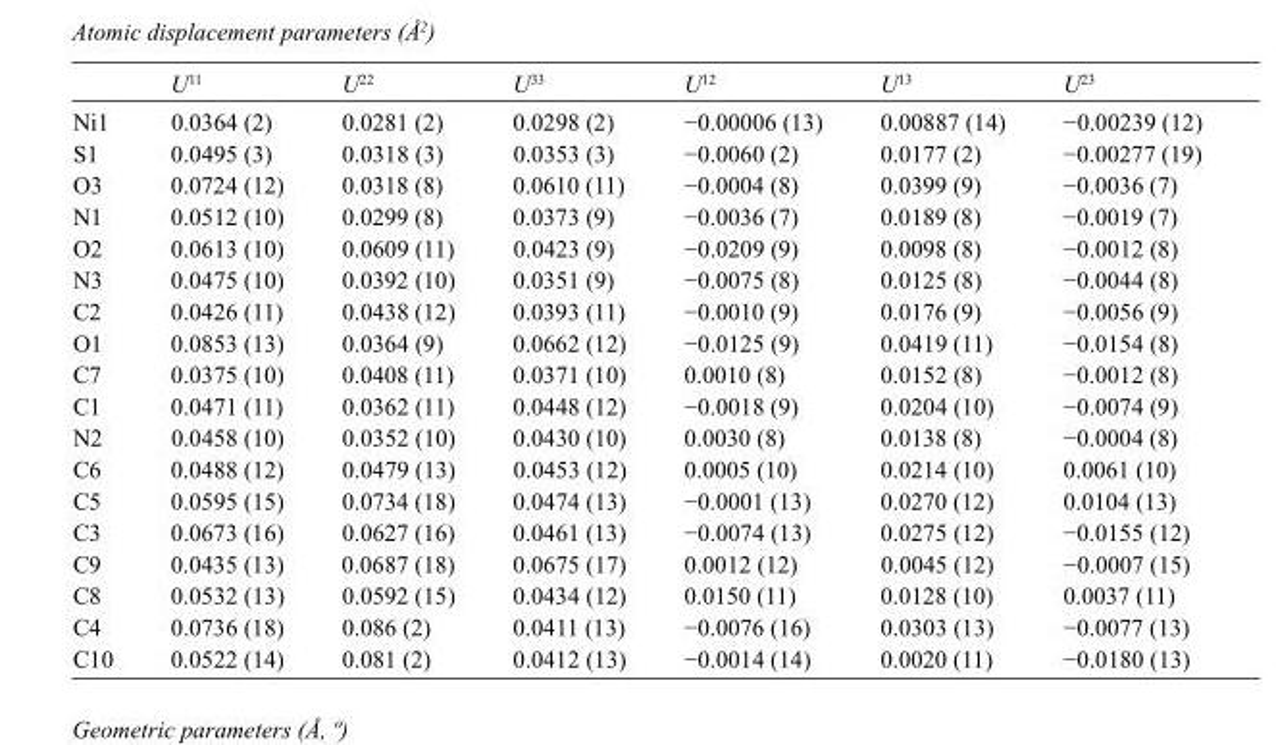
<table><thead><tr><td></td><td>U<sup>11</sup></td><td>U<sup>22</sup></td><td>U<sup>33</sup></td><td>U<sup>12</sup></td><td>U<sup>13</sup></td><td>U<sup>23</sup></td></tr></thead><tbody><tr><td>Ni1</td><td>0.0364 (2)</td><td>0.0281 (2)</td><td>0.0298 (2)</td><td>−0.00006 (13)</td><td>0.00887 (14)</td><td>−0.00239 (12)</td></tr><tr><td>S1</td><td>0.0495 (3)</td><td>0.0318 (3)</td><td>0.0353 (3)</td><td>−0.0060 (2)</td><td>0.0177 (2)</td><td>−0.00277 (19)</td></tr><tr><td>O3</td><td>0.0724 (12)</td><td>0.0318 (8)</td><td>0.0610 (11)</td><td>−0.0004 (8)</td><td>0.0399 (9)</td><td>−0.0036 (7)</td></tr><tr><td>N1</td><td>0.0512 (10)</td><td>0.0299 (8)</td><td>0.0373 (9)</td><td>−0.0036 (7)</td><td>0.0189 (8)</td><td>−0.0019 (7)</td></tr><tr><td>O2</td><td>0.0613 (10)</td><td>0.0609 (11)</td><td>0.0423 (9)</td><td>−0.0209 (9)</td><td>0.0098 (8)</td><td>−0.0012 (8)</td></tr><tr><td>N3</td><td>0.0475 (10)</td><td>0.0392 (10)</td><td>0.0351 (9)</td><td>−0.0075 (8)</td><td>0.0125 (8)</td><td>−0.0044 (8)</td></tr><tr><td>C2</td><td>0.0426 (11)</td><td>0.0438 (12)</td><td>0.0393 (11)</td><td>−0.0010 (9)</td><td>0.0176 (9)</td><td>−0.0056 (9)</td></tr><tr><td>O1</td><td>0.0853 (13)</td><td>0.0364 (9)</td><td>0.0662 (12)</td><td>−0.0125 (9)</td><td>0.0419 (11)</td><td>−0.0154 (8)</td></tr><tr><td>C7</td><td>0.0375 (10)</td><td>0.0408 (11)</td><td>0.0371 (10)</td><td>0.0010 (8)</td><td>0.0152 (8)</td><td>−0.0012 (8)</td></tr><tr><td>C1</td><td>0.0471 (11)</td><td>0.0362 (11)</td><td>0.0448 (12)</td><td>−0.0018 (9)</td><td>0.0204 (10)</td><td>−0.0074 (9)</td></tr><tr><td>N2</td><td>0.0458 (10)</td><td>0.0352 (10)</td><td>0.0430 (10)</td><td>0.0030 (8)</td><td>0.0138 (8)</td><td>−0.0004 (8)</td></tr><tr><td>C6</td><td>0.0488 (12)</td><td>0.0479 (13)</td><td>0.0453 (12)</td><td>0.0005 (10)</td><td>0.0214 (10)</td><td>0.0061 (10)</td></tr><tr><td>C5</td><td>0.0595 (15)</td><td>0.0734 (18)</td><td>0.0474 (13)</td><td>−0.0001 (13)</td><td>0.0270 (12)</td><td>0.0104 (13)</td></tr><tr><td>C3</td><td>0.0673 (16)</td><td>0.0627 (16)</td><td>0.0461 (13)</td><td>−0.0074 (13)</td><td>0.0275 (12)</td><td>−0.0155 (12)</td></tr><tr><td>C9</td><td>0.0435 (13)</td><td>0.0687 (18)</td><td>0.0675 (17)</td><td>0.0012 (12)</td><td>0.0045 (12)</td><td>−0.0007 (15)</td></tr><tr><td>C8</td><td>0.0532 (13)</td><td>0.0592 (15)</td><td>0.0434 (12)</td><td>0.0150 (11)</td><td>0.0128 (10)</td><td>0.0037 (11)</td></tr><tr><td>C4</td><td>0.0736 (18)</td><td>0.086 (2)</td><td>0.0411 (13)</td><td>−0.0076 (16)</td><td>0.0303 (13)</td><td>−0.0077 (13)</td></tr><tr><td>C10</td><td>0.0522 (14)</td><td>0.081 (2)</td><td>0.0412 (13)</td><td>−0.0014 (14)</td><td>0.0020 (11)</td><td>−0.0180 (13)</td></tr></tbody></table>